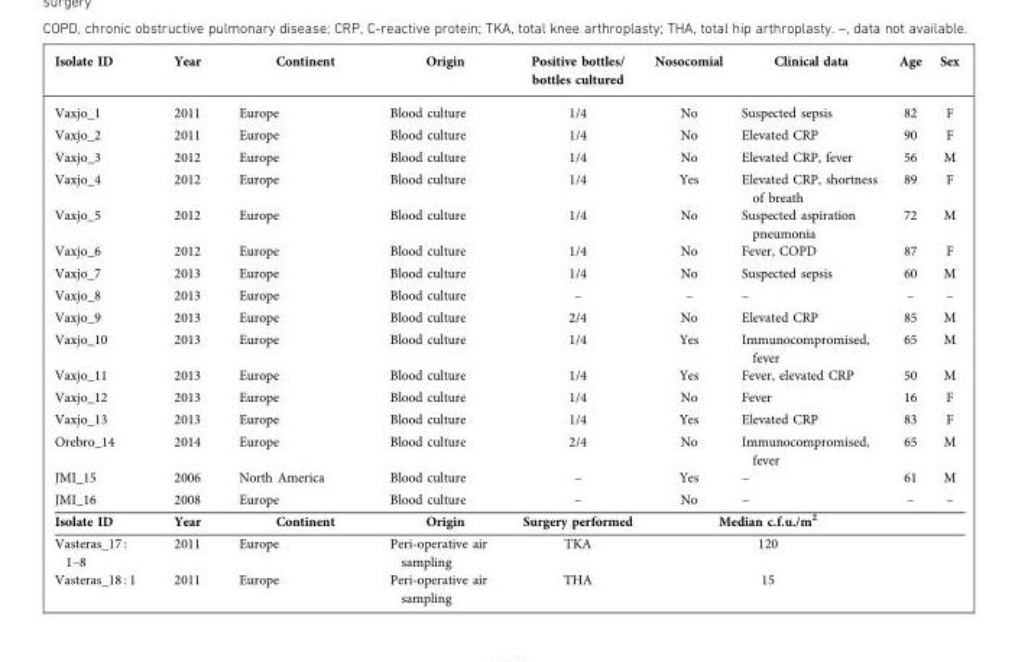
<table><thead><tr><td>Isolate ID</td><td>Year</td><td>Continent</td><td>Origin</td><td>Positive bottles/ bottles cultured</td><td>Nosocomial</td><td>Clinical data</td><td>Age</td><td>Sex</td></tr></thead><tbody><tr><td>Vaxjo_1</td><td>2011</td><td>Europe</td><td>Blood culture</td><td>1/4</td><td>No</td><td>Suspected sepsis</td><td>82</td><td>F</td></tr><tr><td>Vaxjo_2</td><td>2011</td><td>Europe</td><td>Blood culture</td><td>1/4</td><td>No</td><td>Elevated CRP</td><td>90</td><td>F</td></tr><tr><td>Vaxjo_3</td><td>2012</td><td>Europe</td><td>Blood culture</td><td>1/4</td><td>No</td><td>Elevated CRP, fever</td><td>56</td><td>M</td></tr><tr><td>Vaxjo_4</td><td>2012</td><td>Europe</td><td>Blood culture</td><td>1/4</td><td>Yes</td><td>Elevated CRP, shortness of breath</td><td>89</td><td>F</td></tr><tr><td>Vaxjo_5</td><td>2012</td><td>Europe</td><td>Blood culture</td><td>1/4</td><td>No</td><td>Suspected aspiration pneumonia</td><td>72</td><td>M</td></tr><tr><td>Vaxjo_6</td><td>2012</td><td>Europe</td><td>Blood culture</td><td>1/4</td><td>No</td><td>Fever, COPD</td><td>87</td><td>F</td></tr><tr><td>Vaxjo_7</td><td>2013</td><td>Europe</td><td>Blood culture</td><td>1/4</td><td>No</td><td>Suspected sepsis</td><td>60</td><td>M</td></tr><tr><td>Vaxjo_8</td><td>2013</td><td>Europe</td><td>Blood culture</td><td>–</td><td>–</td><td>–</td><td>–</td><td>–</td></tr><tr><td>Vaxjo_9</td><td>2013</td><td>Europe</td><td>Blood culture</td><td>2/4</td><td>No</td><td>Elevated CRP</td><td>85</td><td>M</td></tr><tr><td>Vaxjo_10</td><td>2013</td><td>Europe</td><td>Blood culture</td><td>1/4</td><td>Yes</td><td>Immunocompromised, fever</td><td>65</td><td>M</td></tr><tr><td>Vaxjo_11</td><td>2013</td><td>Europe</td><td>Blood culture</td><td>1/4</td><td>Yes</td><td>Fever, elevated CRP</td><td>50</td><td>M</td></tr><tr><td>Vaxjo_12</td><td>2013</td><td>Europe</td><td>Blood culture</td><td>1/4</td><td>No</td><td>Fever</td><td>16</td><td>F</td></tr><tr><td>Vaxjo_13</td><td>2013</td><td>Europe</td><td>Blood culture</td><td>1/4</td><td>Yes</td><td>Elevated CRP</td><td>83</td><td>F</td></tr><tr><td>Orebro_14</td><td>2014</td><td>Europe</td><td>Blood culture</td><td>2/4</td><td>No</td><td>Immunocompromised, fever</td><td>65</td><td>M</td></tr><tr><td>JMI_15</td><td>2006</td><td>North America</td><td>Blood culture</td><td>–</td><td>Yes</td><td>–</td><td>61</td><td>M</td></tr><tr><td>JMI_16</td><td>2008</td><td>Europe</td><td>Blood culture</td><td>–</td><td>No</td><td>–</td><td>–</td><td>–</td></tr><tr><td>Isolate ID</td><td>Year</td><td>Continent</td><td>Origin</td><td>Surgery performed</td><td colspan="2">Median c.f.u./m<sup>2</sup></td><td></td><td></td></tr><tr><td>Vasteras_17 : 1–8</td><td>2011</td><td>Europe</td><td>Peri-operative air sampling</td><td>TKA</td><td colspan="2">120</td><td></td><td></td></tr><tr><td>Vasteras_18 : 1</td><td>2011</td><td>Europe</td><td>Peri-operative air sampling</td><td>THA</td><td colspan="2">15</td><td></td><td></td></tr></tbody></table>